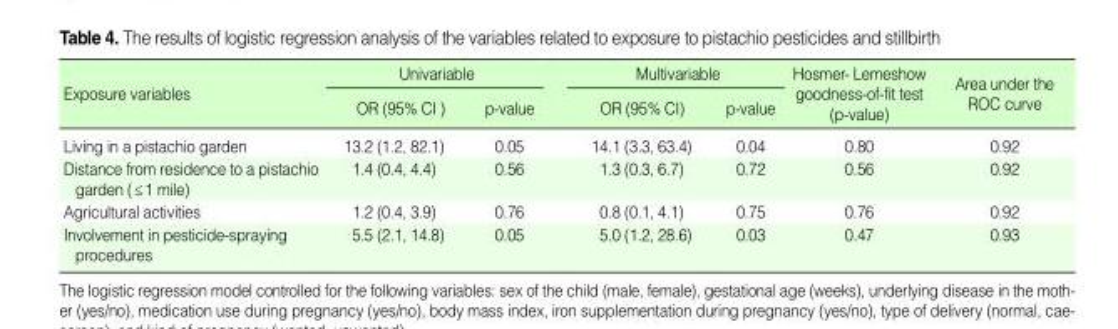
<table><thead><tr><td rowspan="2">Exposure variables</td><td colspan="2">Univariable</td><td colspan="2">Multivariable</td><td rowspan="2">Hosmer- Lemeshow goodness-of-fit test (p-value)</td><td rowspan="2">Area under the ROC curve</td></tr><tr><td>OR (95% CI )</td><td>p-value</td><td>OR (95% CI)</td><td>p-value</td></tr></thead><tbody><tr><td>Living in a pistachio garden</td><td>13.2 (1.2, 82.1)</td><td>0.05</td><td>14.1 (3.3, 63.4)</td><td>0.04</td><td>0.80</td><td>0.92</td></tr><tr><td>Distance from residence to a pistachio garden (≤1 mile)</td><td>1.4 (0.4, 4.4)</td><td>0.56</td><td>1.3 (0.3, 6.7)</td><td>0.72</td><td>0.56</td><td>0.92</td></tr><tr><td>Agricultural activities</td><td>1.2 (0.4, 3.9)</td><td>0.76</td><td>0.8 (0.1, 4.1)</td><td>0.75</td><td>0.76</td><td>0.92</td></tr><tr><td>Involvement in pesticide-spraying procedures</td><td>5.5 (2.1, 14.8)</td><td>0.05</td><td>5.0 (1.2, 28.6)</td><td>0.03</td><td>0.47</td><td>0.93</td></tr></tbody></table>